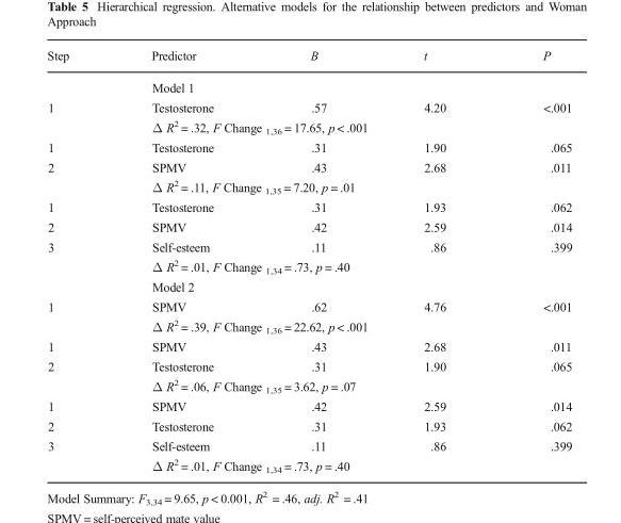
<table><thead><tr><td>Step</td><td>Predictor</td><td>Β</td><td>t</td><td>P</td></tr></thead><tbody><tr><td></td><td colspan="4">Model 1</td></tr><tr><td rowspan="2">1</td><td>Testosterone</td><td>.57</td><td>4.20</td><td>&lt;.001</td></tr><tr><td colspan="4">Δ R<sup>2</sup> = .32, F Change <sub>1,36</sub> = 17.65, p &lt; .001</td></tr><tr><td>1</td><td>Testosterone</td><td>.31</td><td>1.90</td><td>.065</td></tr><tr><td rowspan="2">2</td><td>SPMV</td><td>.43</td><td>2.68</td><td>.011</td></tr><tr><td colspan="4">Δ R<sup>2</sup> = .11, F Change <sub>1,35</sub> = 7.20, p = .01</td></tr><tr><td>1</td><td>Testosterone</td><td>.31</td><td>1.93</td><td>.062</td></tr><tr><td>2</td><td>SPMV</td><td>.42</td><td>2.59</td><td>.014</td></tr><tr><td rowspan="3">3</td><td>Self-esteem</td><td>.11</td><td>.86</td><td>.399</td></tr><tr><td colspan="4">Δ R<sup>2</sup> = .01, F Change <sub>1,34</sub> = .73, p = .40</td></tr><tr><td colspan="4">Model 2</td></tr><tr><td rowspan="2">1</td><td>SPMV</td><td>.62</td><td>4.76</td><td>&lt;.001</td></tr><tr><td colspan="4">Δ R<sup>2</sup> = .39, F Change <sub>1,36</sub> = 22.62, p &lt; .001</td></tr><tr><td>1</td><td>SPMV</td><td>.43</td><td>2.68</td><td>.011</td></tr><tr><td rowspan="2">2</td><td>Testosterone</td><td>.31</td><td>1.90</td><td>.065</td></tr><tr><td colspan="4">Δ R<sup>2</sup> = .06, F Change <sub>1,35</sub> = 3.62, p = .07</td></tr><tr><td>1</td><td>SPMV</td><td>.42</td><td>2.59</td><td>.014</td></tr><tr><td>2</td><td>Testosterone</td><td>.31</td><td>1.93</td><td>.062</td></tr><tr><td rowspan="2">3</td><td>Self-esteem</td><td>.11</td><td>.86</td><td>.399</td></tr><tr><td colspan="4">Δ R<sup>2</sup> = .01, F Change <sub>1,34</sub> = .73, p = .40</td></tr></tbody></table>